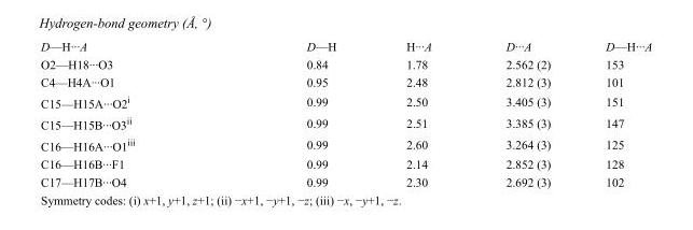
<table><tbody><tr><td>D—H···A</td><td>D—H</td><td>H···A</td><td>D···A</td><td>D—H···A</td></tr><tr><td>O2—H18···O3</td><td>0.84</td><td>1.78</td><td>2.562 (2)</td><td>153</td></tr><tr><td>C4—H4A···O1</td><td>0.95</td><td>2.48</td><td>2.812 (3)</td><td>101</td></tr><tr><td>C15—H15A···O2<sup>i</sup></td><td>0.99</td><td>2.50</td><td>3.405 (3)</td><td>151</td></tr><tr><td>C15—H15B···O3<sup>ii</sup></td><td>0.99</td><td>2.51</td><td>3.385 (3)</td><td>147</td></tr><tr><td>C16—H16A···O1<sup>iii</sup></td><td>0.99</td><td>2.60</td><td>3.264 (3)</td><td>125</td></tr><tr><td>C16—H16B···F1</td><td>0.99</td><td>2.14</td><td>2.852 (3)</td><td>128</td></tr><tr><td>C17—H17B···O4</td><td>0.99</td><td>2.30</td><td>2.692 (3)</td><td>102</td></tr></tbody></table>